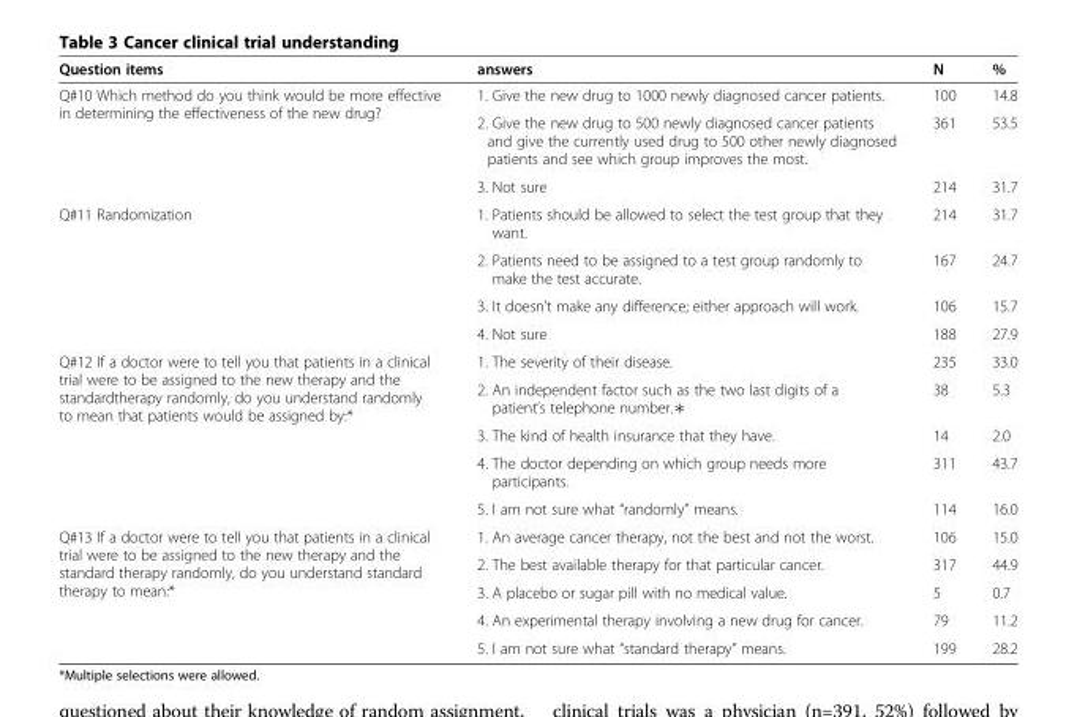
<table><thead><tr><td>Question items</td><td>answers</td><td>N</td><td>%</td></tr></thead><tbody><tr><td rowspan="3">Q#10 Which method do you think would be more effective in determining the effectiveness of the new drug?</td><td>1. Give the new drug to 1000 newly diagnosed cancer patients.</td><td>100</td><td>14.8</td></tr><tr><td>2. Give the new drug to 500 newly diagnosed cancer patients and give the currently used drug to 500 other newly diagnosed patients and see which group improves the most.</td><td>361</td><td>53.5</td></tr><tr><td>3. Not sure</td><td>214</td><td>31.7</td></tr><tr><td rowspan="4">Q#11 Randomization</td><td>1. Patients should be allowed to select the test group that they want.</td><td>214</td><td>31.7</td></tr><tr><td>2. Patients need to be assigned to a test group randomly to make the test accurate.</td><td>167</td><td>24.7</td></tr><tr><td>3. It doesn’t make any difference; either approach will work.</td><td>106</td><td>15.7</td></tr><tr><td>4. Not sure</td><td>188</td><td>27.9</td></tr><tr><td rowspan="5">Q#12 If a doctor were to tell you that patients in a clinical trial were to be assigned to the new therapy and the standardtherapy randomly, do you understand randomly to mean that patients would be assigned by:*</td><td>1. The severity of their disease.</td><td>235</td><td>33.0</td></tr><tr><td>2. An independent factor such as the two last digits of a patient’s telephone number.∗</td><td>38</td><td>5.3</td></tr><tr><td>3. The kind of health insurance that they have.</td><td>14</td><td>2.0</td></tr><tr><td>4. The doctor depending on which group needs more participants.</td><td>311</td><td>43.7</td></tr><tr><td>5. I am not sure what “randomly” means.</td><td>114</td><td>16.0</td></tr><tr><td rowspan="5">Q#13 If a doctor were to tell you that patients in a clinical trial were to be assigned to the new therapy and the standard therapy randomly, do you understand standard therapy to mean:*</td><td>1. An average cancer therapy, not the best and not the worst.</td><td>106</td><td>15.0</td></tr><tr><td>2. The best available therapy for that particular cancer.</td><td>317</td><td>44.9</td></tr><tr><td>3. A placebo or sugar pill with no medical value.</td><td>5</td><td>0.7</td></tr><tr><td>4. An experimental therapy involving a new drug for cancer.</td><td>79</td><td>11.2</td></tr><tr><td>5. I am not sure what “standard therapy” means.</td><td>199</td><td>28.2</td></tr></tbody></table>